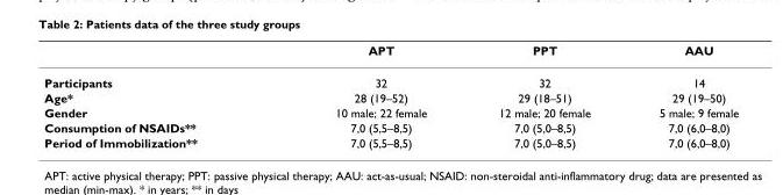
<table><thead><tr><td></td><td>APT</td><td>PPT</td><td>AAU</td></tr></thead><tbody><tr><td>Participants</td><td>32</td><td>32</td><td>14</td></tr><tr><td>Age*</td><td>28 (19–52)</td><td>29 (18–51)</td><td>29 (19–50)</td></tr><tr><td>Gender</td><td>10 male; 22 female</td><td>12 male; 20 female</td><td>5 male; 9 female</td></tr><tr><td>Consumption of NSAIDs**</td><td>7,0 (5,5–8,5)</td><td>7,0 (5,0–8,5)</td><td>7,0 (6,0–8,0)</td></tr><tr><td>Period of Immobilization**</td><td>7,0 (5,5–8,5)</td><td>7,0 (5,0–8,5)</td><td>7,0 (6,0–8,0)</td></tr></tbody></table>